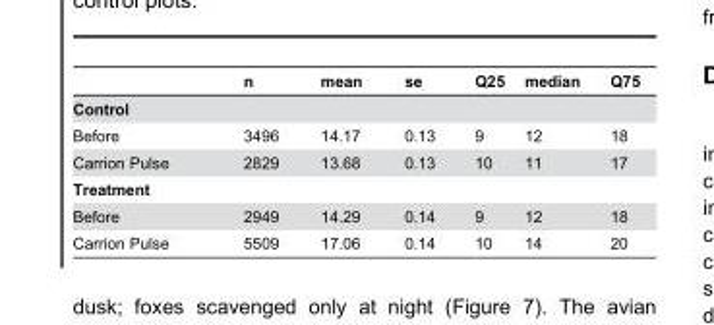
<table><thead><tr><td></td><td>n</td><td>mean</td><td>se</td><td>Q25</td><td>median</td><td>Q75</td></tr></thead><tbody><tr><td colspan="7">Control</td></tr><tr><td>Before</td><td>3496</td><td>14.17</td><td>0.13</td><td>9</td><td>12</td><td>18</td></tr><tr><td>Carrion Pulse</td><td>2829</td><td>13.68</td><td>0.13</td><td>10</td><td>11</td><td>17</td></tr><tr><td colspan="7">Treatment</td></tr><tr><td>Before</td><td>2949</td><td>14.29</td><td>0.14</td><td>9</td><td>12</td><td>18</td></tr><tr><td>Carrion Pulse</td><td>5509</td><td>17.06</td><td>0.14</td><td>10</td><td>14</td><td>20</td></tr></tbody></table>